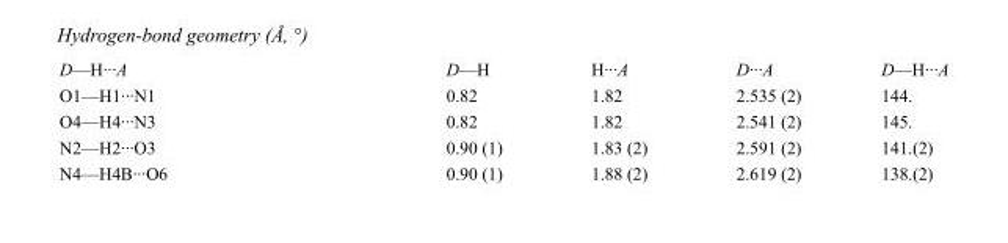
<table><tbody><tr><td>D—H···A</td><td>D—H</td><td>H···A</td><td>D···A</td><td>D—H···A</td></tr><tr><td>O1—H1···N1</td><td>0.82</td><td>1.82</td><td>2.535 (2)</td><td>144.</td></tr><tr><td>O4—H4···N3</td><td>0.82</td><td>1.82</td><td>2.541 (2)</td><td>145.</td></tr><tr><td>N2—H2···O3</td><td>0.90 (1)</td><td>1.83 (2)</td><td>2.591 (2)</td><td>141.(2)</td></tr><tr><td>N4—H4B···O6</td><td>0.90 (1)</td><td>1.88 (2)</td><td>2.619 (2)</td><td>138.(2)</td></tr></tbody></table>